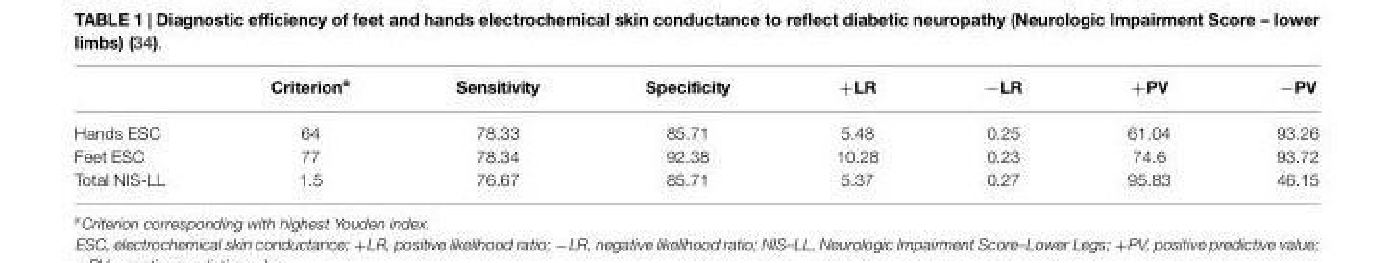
<table><thead><tr><td></td><td>Criterion<sup>a</sup></td><td>Sensitivity</td><td>Specificity</td><td>+LR</td><td>−LR</td><td>+PV</td><td>−PV</td></tr></thead><tbody><tr><td>Hands ESC</td><td>64</td><td>78.33</td><td>85.71</td><td>5.48</td><td>0.25</td><td>61.04</td><td>93.26</td></tr><tr><td>Feet ESC</td><td>77</td><td>78.34</td><td>92.38</td><td>10.28</td><td>0.23</td><td>74.6</td><td>93.72</td></tr><tr><td>Total NIS-LL</td><td>1.5</td><td>76.67</td><td>85.71</td><td>5.37</td><td>0.27</td><td>95.83</td><td>46.15</td></tr></tbody></table>